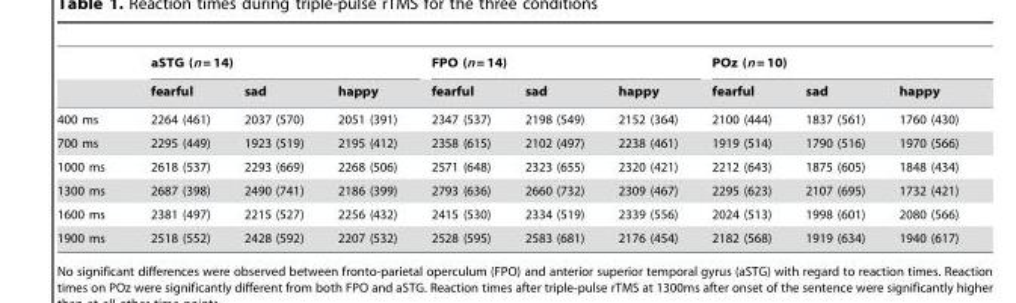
<table><thead><tr><td rowspan="2"></td><td colspan="3">aSTG (n = 14)</td><td colspan="3">FPO (n = 14)</td><td colspan="3">POz (n = 10)</td></tr><tr><td>fearful</td><td>sad</td><td>happy</td><td>fearful</td><td>sad</td><td>happy</td><td>fearful</td><td>sad</td><td>happy</td></tr></thead><tbody><tr><td>400 ms</td><td>2264 (461)</td><td>2037 (570)</td><td>2051 (391)</td><td>2347 (537)</td><td>2198 (549)</td><td>2152 (364)</td><td>2100 (444)</td><td>1837 (561)</td><td>1760 (430)</td></tr><tr><td>700 ms</td><td>2295 (449)</td><td>1923 (519)</td><td>2195 (412)</td><td>2358 (615)</td><td>2102 (497)</td><td>2238 (461)</td><td>1919 (514)</td><td>1790 (516)</td><td>1970 (566)</td></tr><tr><td>1000 ms</td><td>2618 (537)</td><td>2293 (669)</td><td>2268 (506)</td><td>2571 (648)</td><td>2323 (655)</td><td>2320 (421)</td><td>2212 (643)</td><td>1875 (605)</td><td>1848 (434)</td></tr><tr><td>1300 ms</td><td>2687 (398)</td><td>2490 (741)</td><td>2186 (399)</td><td>2793 (636)</td><td>2660 (732)</td><td>2309 (467)</td><td>2295 (623)</td><td>2107 (695)</td><td>1732 (421)</td></tr><tr><td>1600 ms</td><td>2381 (497)</td><td>2215 (527)</td><td>2256 (432)</td><td>2415 (530)</td><td>2334 (519)</td><td>2339 (556)</td><td>2024 (513)</td><td>1998 (601)</td><td>2080 (566)</td></tr><tr><td>1900 ms</td><td>2518 (552)</td><td>2428 (592)</td><td>2207 (532)</td><td>2528 (595)</td><td>2583 (681)</td><td>2176 (454)</td><td>2182 (568)</td><td>1919 (634)</td><td>1940 (617)</td></tr></tbody></table>